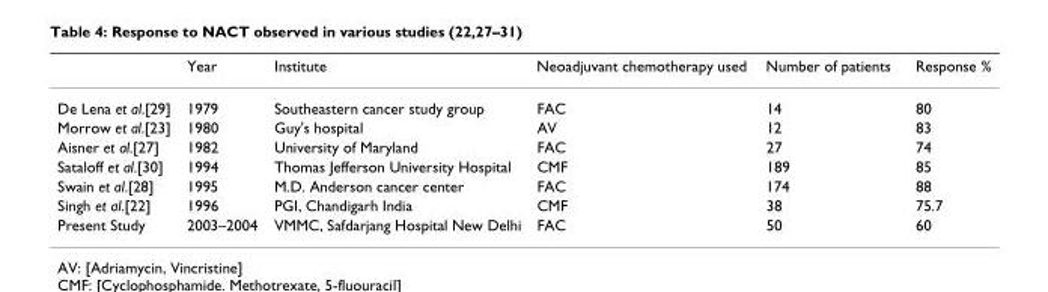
<table><thead><tr><td></td><td>Year</td><td>Institute</td><td>Neoadjuvant chemotherapy used</td><td>Number of patients</td><td>Response %</td></tr></thead><tbody><tr><td>De Lena et al.[29]</td><td>1979</td><td>Southeastern cancer study group</td><td>FAC</td><td>14</td><td>80</td></tr><tr><td>Morrow et al.[23]</td><td>1980</td><td>Guy&#x27;s hospital</td><td>AV</td><td>12</td><td>83</td></tr><tr><td>Aisner et al.[27]</td><td>1982</td><td>University of Maryland</td><td>FAC</td><td>27</td><td>74</td></tr><tr><td>Sataloff et al.[30]</td><td>1994</td><td>Thomas Jefferson University Hospital</td><td>CMF</td><td>189</td><td>85</td></tr><tr><td>Swain et al.[28]</td><td>1995</td><td>M.D. Anderson cancer center</td><td>FAC</td><td>174</td><td>88</td></tr><tr><td>Singh et al.[22]</td><td>1996</td><td>PGI, Chandigarh India</td><td>CMF</td><td>38</td><td>75.7</td></tr><tr><td>Present Study</td><td>2003–2004</td><td>VMMC, Safdarjang Hospital New Delhi</td><td>FAC</td><td>50</td><td>60</td></tr></tbody></table>